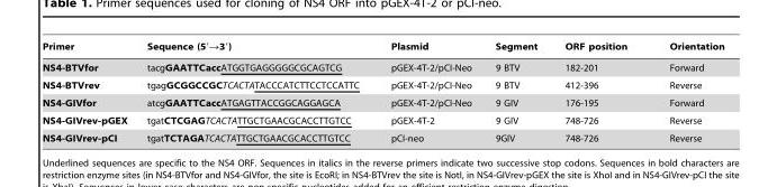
<table><thead><tr><td>Primer</td><td>Sequence (5′→3′)</td><td>Plasmid</td><td>Segment</td><td>ORF position</td><td>Orientation</td></tr></thead><tbody><tr><td>NS4-BTVfor</td><td>tacgGAATTCaccATGGTGAGGGGGCGCAGTCG</td><td>pGEX-4T-2/pCI-Neo</td><td>9 BTV</td><td>182-201</td><td>Forward</td></tr><tr><td>NS4-BTVrev</td><td>tgagGCGGCCGCTCACTATACCCATCTTCCTCCATTC</td><td>pGEX-4T-2/pCI-Neo</td><td>9 BTV</td><td>412-396</td><td>Reverse</td></tr><tr><td>NS4-GIVfor</td><td>atcgGAATTCaccATGAGTTACCGGCAGGAGCA</td><td>pGEX-4T-2/pCI-Neo</td><td>9 GIV</td><td>176-195</td><td>Forward</td></tr><tr><td>NS4-GIVrev-pGEX</td><td>tgatCTCGAGTCACTATTGCTGAACGCACCTTGTCC</td><td>pGEX-4T-2</td><td>9 GIV</td><td>748-726</td><td>Reverse</td></tr><tr><td>NS4-GIVrev-pCI</td><td>tgatTCTAGATCACTATTGCTGAACGCACCTTGTCC</td><td>pCI-neo</td><td>9GIV</td><td>748-726</td><td>Reverse</td></tr></tbody></table>